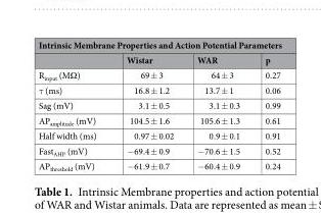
<table><thead><tr><td colspan="4">Intrinsic Membrane Properties and Action Potential Parameters</td></tr><tr><td></td><td>Wistar</td><td>WAR</td><td>p</td></tr></thead><tbody><tr><td>R<sub>input</sub> (MΩ)</td><td>69 ± 3</td><td>64 ± 3</td><td>0.27</td></tr><tr><td>τ (ms)</td><td>16.8 ± 1.2</td><td>13.7 ± 1</td><td>0.06</td></tr><tr><td>Sag (mV)</td><td>3.1 ± 0.5</td><td>3.1 ± 0.3</td><td>0.99</td></tr><tr><td>AP<sub>amplitude</sub> (mV)</td><td>104.5 ± 1.6</td><td>105.6 ± 1.3</td><td>0.61</td></tr><tr><td>Half width (ms)</td><td>0.97 ± 0.02</td><td>0.9 ± 0.1</td><td>0.91</td></tr><tr><td>Fast<sub>AHP</sub> (mV)</td><td>−69.4 ± 0.9</td><td>−70.6 ± 1.5</td><td>0.52</td></tr><tr><td>AP<sub>threshold</sub> (mV)</td><td>−61.9 ± 0.7</td><td>−60.4 ± 0.9</td><td>0.24</td></tr></tbody></table>